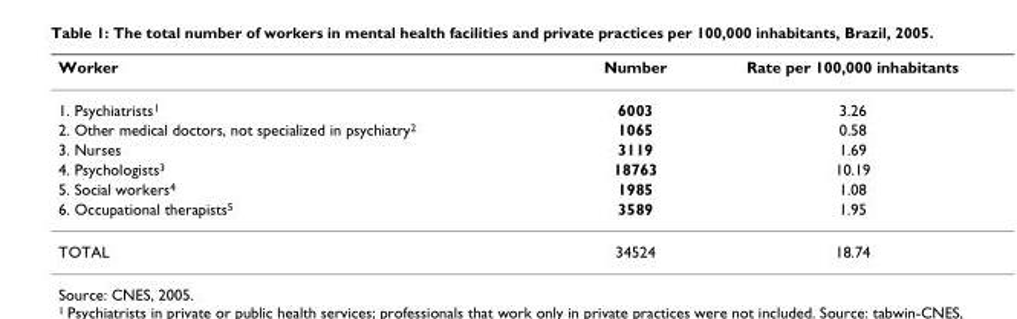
<table><thead><tr><td>Worker</td><td>Number</td><td>Rate per 100,000 inhabitants</td></tr></thead><tbody><tr><td>1. Psychiatrists<sup>1</sup></td><td>6003</td><td>3.26</td></tr><tr><td>2. Other medical doctors, not specialized in psychiatry<sup>2</sup></td><td>1065</td><td>0.58</td></tr><tr><td>3. Nurses</td><td>3119</td><td>1.69</td></tr><tr><td>4. Psychologists<sup>3</sup></td><td>18763</td><td>10.19</td></tr><tr><td>5. Social workers<sup>4</sup></td><td>1985</td><td>1.08</td></tr><tr><td>6. Occupational therapists<sup>5</sup></td><td>3589</td><td>1.95</td></tr><tr><td>TOTAL</td><td>34524</td><td>18.74</td></tr></tbody></table>